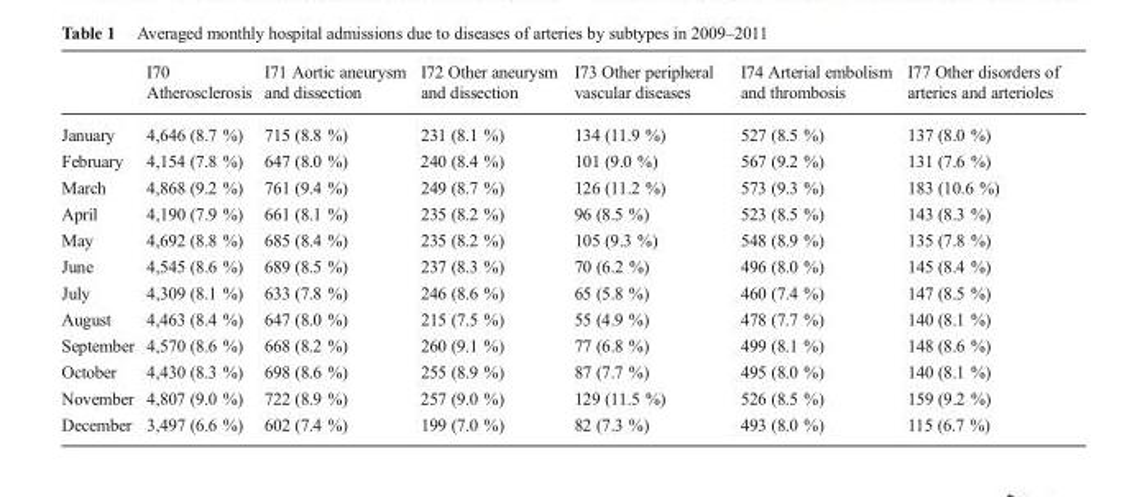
<table><thead><tr><td></td><td>I70 Atherosclerosis</td><td>I71 Aortic aneurysm and dissection</td><td>I72 Other aneurysm and dissection</td><td>I73 Other peripheral vascular diseases</td><td>I74 Arterial embolism and thrombosis</td><td>I77 Other disorders of arteries and arterioles</td></tr></thead><tbody><tr><td>January</td><td>4,646 (8.7 %)</td><td>715 (8.8 %)</td><td>231 (8.1 %)</td><td>134 (11.9 %)</td><td>527 (8.5 %)</td><td>137 (8.0 %)</td></tr><tr><td>February</td><td>4,154 (7.8 %)</td><td>647 (8.0 %)</td><td>240 (8.4 %)</td><td>101 (9.0 %)</td><td>567 (9.2 %)</td><td>131 (7.6 %)</td></tr><tr><td>March</td><td>4,868 (9.2 %)</td><td>761 (9.4 %)</td><td>249 (8.7 %)</td><td>126 (11.2 %)</td><td>573 (9.3 %)</td><td>183 (10.6 %)</td></tr><tr><td>April</td><td>4,190 (7.9 %)</td><td>661 (8.1 %)</td><td>235 (8.2 %)</td><td>96 (8.5 %)</td><td>523 (8.5 %)</td><td>143 (8.3 %)</td></tr><tr><td>May</td><td>4,692 (8.8 %)</td><td>685 (8.4 %)</td><td>235 (8.2 %)</td><td>105 (9.3 %)</td><td>548 (8.9 %)</td><td>135 (7.8 %)</td></tr><tr><td>June</td><td>4,545 (8.6 %)</td><td>689 (8.5 %)</td><td>237 (8.3 %)</td><td>70 (6.2 %)</td><td>496 (8.0 %)</td><td>145 (8.4 %)</td></tr><tr><td>July</td><td>4,309 (8.1 %)</td><td>633 (7.8 %)</td><td>246 (8.6 %)</td><td>65 (5.8 %)</td><td>460 (7.4 %)</td><td>147 (8.5 %)</td></tr><tr><td>August</td><td>4,463 (8.4 %)</td><td>647 (8.0 %)</td><td>215 (7.5 %)</td><td>55 (4.9 %)</td><td>478 (7.7 %)</td><td>140 (8.1 %)</td></tr><tr><td>September</td><td>4,570 (8.6 %)</td><td>668 (8.2 %)</td><td>260 (9.1 %)</td><td>77 (6.8 %)</td><td>499 (8.1 %)</td><td>148 (8.6 %)</td></tr><tr><td>October</td><td>4,430 (8.3 %)</td><td>698 (8.6 %)</td><td>255 (8.9 %)</td><td>87 (7.7 %)</td><td>495 (8.0 %)</td><td>140 (8.1 %)</td></tr><tr><td>November</td><td>4,807 (9.0 %)</td><td>722 (8.9 %)</td><td>257 (9.0 %)</td><td>129 (11.5 %)</td><td>526 (8.5 %)</td><td>159 (9.2 %)</td></tr><tr><td>December</td><td>3,497 (6.6 %)</td><td>602 (7.4 %)</td><td>199 (7.0 %)</td><td>82 (7.3 %)</td><td>493 (8.0 %)</td><td>115 (6.7 %)</td></tr></tbody></table>